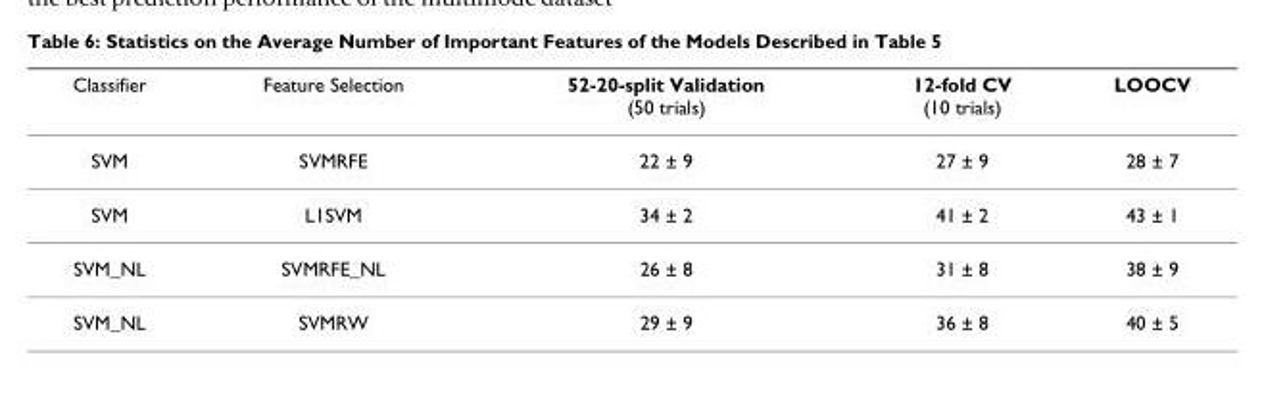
<table><thead><tr><td>Classifier</td><td>Feature Selection</td><td>52-20-split Validation (50 trials)</td><td>12-fold CV (10 trials)</td><td>LOOCV</td></tr></thead><tbody><tr><td>SVM</td><td>SVMRFE</td><td>22 ± 9</td><td>27 ± 9</td><td>28 ± 7</td></tr><tr><td>SVM</td><td>L1SVM</td><td>34 ± 2</td><td>41 ± 2</td><td>43 ± 1</td></tr><tr><td>SVM_NL</td><td>SVMRFE_NL</td><td>26 ± 8</td><td>31 ± 8</td><td>38 ± 9</td></tr><tr><td>SVM_NL</td><td>SVMRW</td><td>29 ± 9</td><td>36 ± 8</td><td>40 ± 5</td></tr></tbody></table>